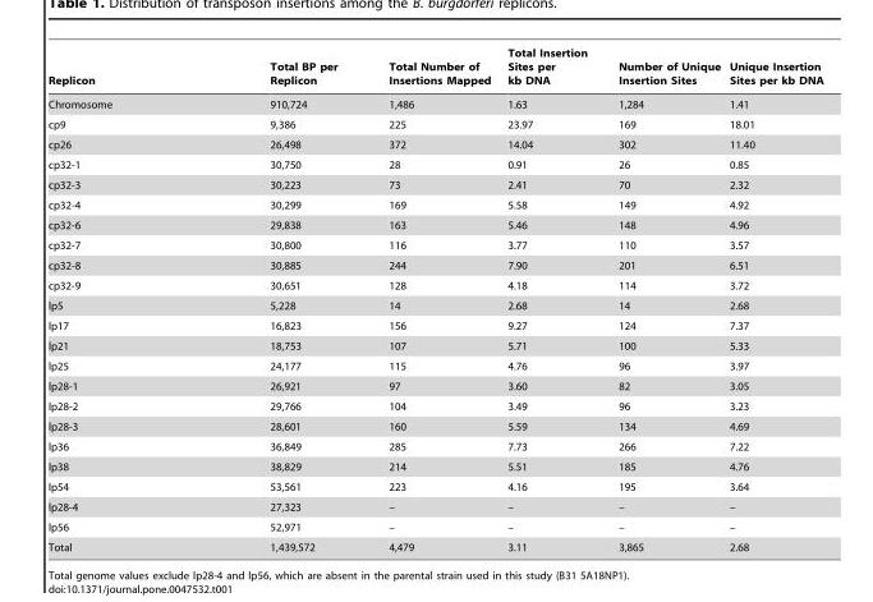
<table><thead><tr><td>Replicon</td><td>Total BP per Replicon</td><td>Total Number of Insertions Mapped</td><td>Total Insertion Sites per kb DNA</td><td>Number of Unique Insertion Sites</td><td>Unique Insertion Sites per kb DNA</td></tr></thead><tbody><tr><td>Chromosome</td><td>910,724</td><td>1,486</td><td>1.63</td><td>1,284</td><td>1.41</td></tr><tr><td>cp9</td><td>9,386</td><td>225</td><td>23.97</td><td>169</td><td>18.01</td></tr><tr><td>cp26</td><td>26,498</td><td>372</td><td>14.04</td><td>302</td><td>11.40</td></tr><tr><td>cp32-1</td><td>30,750</td><td>28</td><td>0.91</td><td>26</td><td>0.85</td></tr><tr><td>cp32-3</td><td>30,223</td><td>73</td><td>2.41</td><td>70</td><td>2.32</td></tr><tr><td>cp32-4</td><td>30,299</td><td>169</td><td>5.58</td><td>149</td><td>4.92</td></tr><tr><td>cp32-6</td><td>29,838</td><td>163</td><td>5.46</td><td>148</td><td>4.96</td></tr><tr><td>cp32-7</td><td>30,800</td><td>116</td><td>3.77</td><td>110</td><td>3.57</td></tr><tr><td>cp32-8</td><td>30,885</td><td>244</td><td>7.90</td><td>201</td><td>6.51</td></tr><tr><td>cp32-9</td><td>30,651</td><td>128</td><td>4.18</td><td>114</td><td>3.72</td></tr><tr><td>lp5</td><td>5,228</td><td>14</td><td>2.68</td><td>14</td><td>2.68</td></tr><tr><td>lp17</td><td>16,823</td><td>156</td><td>9.27</td><td>124</td><td>7.37</td></tr><tr><td>lp21</td><td>18,753</td><td>107</td><td>5.71</td><td>100</td><td>5.33</td></tr><tr><td>lp25</td><td>24,177</td><td>115</td><td>4.76</td><td>96</td><td>3.97</td></tr><tr><td>lp28-1</td><td>26,921</td><td>97</td><td>3.60</td><td>82</td><td>3.05</td></tr><tr><td>lp28-2</td><td>29,766</td><td>104</td><td>3.49</td><td>96</td><td>3.23</td></tr><tr><td>lp28-3</td><td>28,601</td><td>160</td><td>5.59</td><td>134</td><td>4.69</td></tr><tr><td>lp36</td><td>36,849</td><td>285</td><td>7.73</td><td>266</td><td>7.22</td></tr><tr><td>lp38</td><td>38,829</td><td>214</td><td>5.51</td><td>185</td><td>4.76</td></tr><tr><td>lp54</td><td>53,561</td><td>223</td><td>4.16</td><td>195</td><td>3.64</td></tr><tr><td>lp28-4</td><td>27,323</td><td>–</td><td>–</td><td>–</td><td>–</td></tr><tr><td>lp56</td><td>52,971</td><td>–</td><td>–</td><td>–</td><td>–</td></tr><tr><td>Total</td><td>1,439,572</td><td>4,479</td><td>3.11</td><td>3,865</td><td>2.68</td></tr></tbody></table>